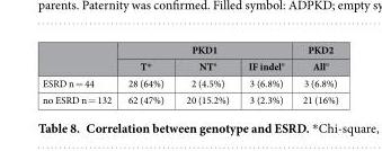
<table><thead><tr><td rowspan="2"></td><td colspan="3">PKD1</td><td rowspan="2">PKD2 All°</td></tr><tr><td>T*</td><td>NT°</td><td>IF indel°</td></tr></thead><tbody><tr><td>ESRD n = 44</td><td>28 (64%)</td><td>2 (4.5%)</td><td>3 (6.8%)</td><td>3 (6.8%)</td></tr><tr><td>no ESRD n = 132</td><td>62 (47%)</td><td>20 (15.2%)</td><td>3 (2.3%)</td><td>21 (16%)</td></tr></tbody></table>